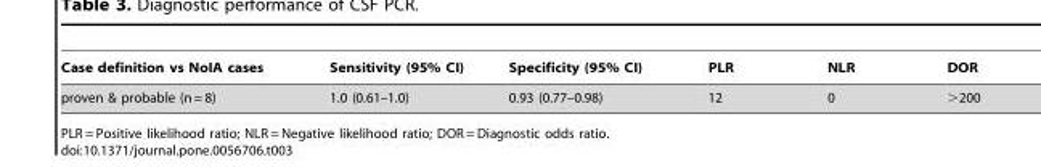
<table><thead><tr><td>Case definition vs NoIA cases</td><td>Sensitivity (95% CI)</td><td>Specificity (95% CI)</td><td>PLR</td><td>NLR</td><td>DOR</td></tr></thead><tbody><tr><td>proven &amp; probable (n = 8)</td><td>1.0 (0.61–1.0)</td><td>0.93 (0.77–0.98)</td><td>12</td><td>0</td><td>&gt;200</td></tr></tbody></table>